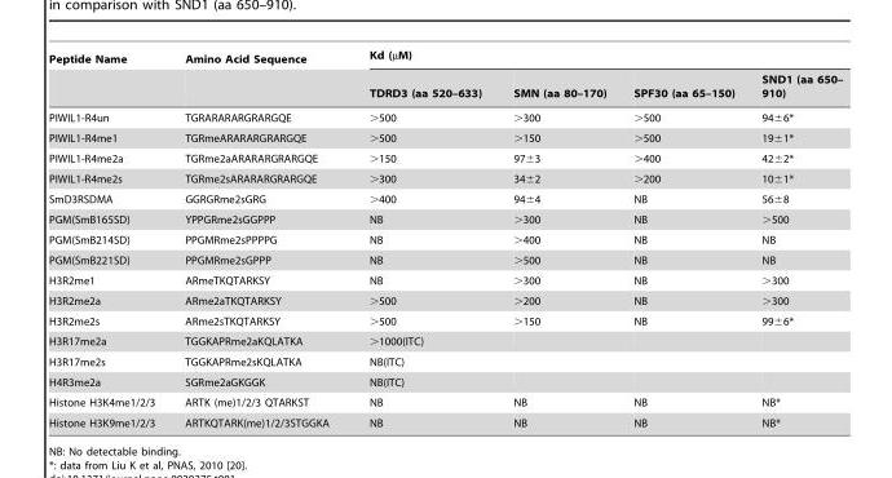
<table><thead><tr><td rowspan="2">Peptide Name</td><td rowspan="2">Amino Acid Sequence</td><td colspan="4">Kd (µM)</td></tr><tr><td>TDRD3 (aa 520–633)</td><td>SMN (aa 80–170)</td><td>SPF30 (aa 65–150)</td><td>SND1 (aa 650– 910)</td></tr></thead><tbody><tr><td>PIWIL1-R4un</td><td>TGRARARARGRARGQE</td><td>&gt;500</td><td>&gt;300</td><td>&gt;500</td><td>94±6*</td></tr><tr><td>PIWIL1-R4me1</td><td>TGRmeARARARGRARGQE</td><td>&gt;500</td><td>&gt;150</td><td>&gt;500</td><td>19±1*</td></tr><tr><td>PIWIL1-R4me2a</td><td>TGRme2aARARARGRARGQE</td><td>&gt;150</td><td>97±3</td><td>&gt;400</td><td>42±2*</td></tr><tr><td>PIWIL1-R4me2s</td><td>TGRme2sARARARGRARGQE</td><td>&gt;300</td><td>34±2</td><td>&gt;200</td><td>10±1*</td></tr><tr><td>SmD3RSDMA</td><td>GGRGRme2sGRG</td><td>&gt;400</td><td>94±4</td><td>NB</td><td>56±8</td></tr><tr><td>PGM(SmB165SD)</td><td>YPPGRme2sGGPPP</td><td>NB</td><td>&gt;300</td><td>NB</td><td>&gt;500</td></tr><tr><td>PGM(SmB214SD)</td><td>PPGMRme2sPPPPG</td><td>NB</td><td>&gt;400</td><td>NB</td><td>NB</td></tr><tr><td>PGM(SmB221SD)</td><td>PPGMRme2sGPPP</td><td>NB</td><td>&gt;500</td><td>NB</td><td>NB</td></tr><tr><td>H3R2me1</td><td>ARmeTKQTARKSY</td><td>NB</td><td>&gt;300</td><td>NB</td><td>&gt;300</td></tr><tr><td>H3R2me2a</td><td>ARme2aTKQTARKSY</td><td>&gt;500</td><td>&gt;200</td><td>NB</td><td>&gt;300</td></tr><tr><td>H3R2me2s</td><td>ARme2sTKQTARKSY</td><td>&gt;500</td><td>&gt;150</td><td>NB</td><td>99±6*</td></tr><tr><td>H3R17me2a</td><td>TGGKAPRme2aKQLATKA</td><td>&gt;1000(ITC)</td><td></td><td></td><td></td></tr><tr><td>H3R17me2s</td><td>TGGKAPRme2sKQLATKA</td><td>NB(ITC)</td><td></td><td></td><td></td></tr><tr><td>H4R3me2a</td><td>SGRme2aGKGGK</td><td>NB(ITC)</td><td></td><td></td><td></td></tr><tr><td>Histone H3K4me1/2/3</td><td>ARTK (me)1/2/3 QTARKST</td><td>NB</td><td>NB</td><td>NB</td><td>NB*</td></tr><tr><td>Histone H3K9me1/2/3</td><td>ARTKQTARK(me)1/2/3STGGKA</td><td>NB</td><td>NB</td><td>NB</td><td>NB*</td></tr></tbody></table>